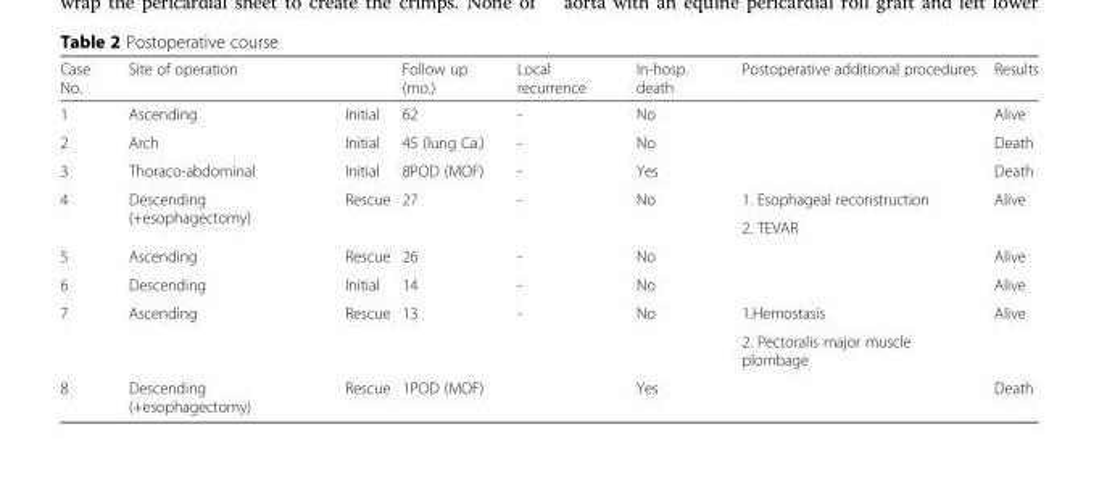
<table><thead><tr><td rowspan="2">Case No. 1</td><td colspan="2">Site of operation</td><td rowspan="2">Follow up (mo.) 62</td><td rowspan="2">Local recurrence -</td><td rowspan="2">In-hosp. death No</td><td rowspan="2">Postoperative additional procedures</td><td rowspan="2">Results Alive</td></tr><tr><td>Ascending</td><td>Initial</td></tr></thead><tbody><tr><td>2</td><td>Arch</td><td>Initial</td><td>45 (lung Ca.)</td><td>-</td><td>No</td><td></td><td>Death</td></tr><tr><td>3</td><td>Thoraco-abdominal</td><td>Initial</td><td>8POD (MOF)</td><td>-</td><td>Yes</td><td></td><td>Death</td></tr><tr><td rowspan="2">4</td><td rowspan="2">Descending (+esophagectomy)</td><td rowspan="2">Rescue</td><td rowspan="2">27</td><td rowspan="2">-</td><td rowspan="2">No</td><td>1. Esophageal reconstruction</td><td rowspan="2">Alive</td></tr><tr><td>2. TEVAR</td></tr><tr><td>5</td><td>Ascending</td><td>Rescue</td><td>26</td><td>-</td><td>No</td><td></td><td>Alive</td></tr><tr><td>6</td><td>Descending</td><td>Initial</td><td>14</td><td>-</td><td>No</td><td></td><td>Alive</td></tr><tr><td rowspan="2">7</td><td rowspan="2">Ascending</td><td rowspan="2">Rescue</td><td rowspan="2">13</td><td rowspan="2">-</td><td rowspan="2">No</td><td>1.Hemostasis</td><td rowspan="2">Alive</td></tr><tr><td>2. Pectoralis major muscle plombage</td></tr><tr><td>8</td><td>Descending (+esophagectomy)</td><td>Rescue</td><td>1POD (MOF)</td><td></td><td>Yes</td><td></td><td>Death</td></tr></tbody></table>